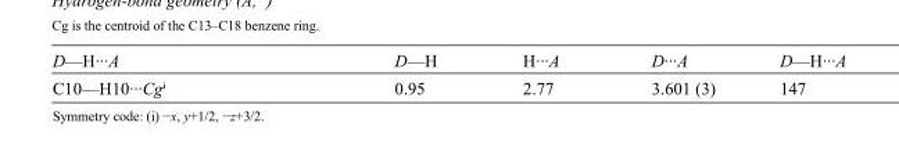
<table><tbody><tr><td>D—H···A</td><td>D—H</td><td>H···A</td><td>D···A</td><td>D—H···A</td></tr><tr><td>C10—H10···Cg<sup>i</sup></td><td>0.95</td><td>2.77</td><td>3.601 (3)</td><td>147</td></tr></tbody></table>